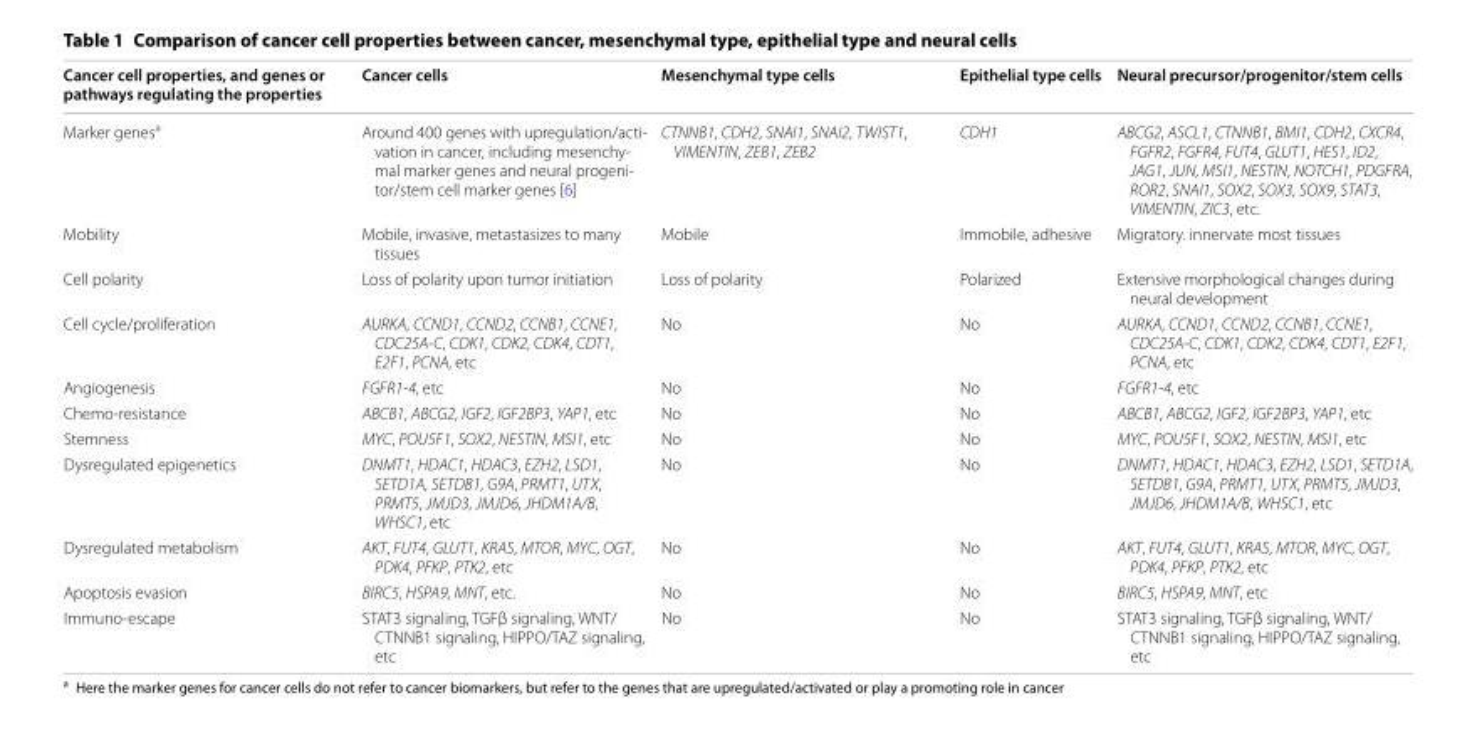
<table><thead><tr><td>Cancer cell properties, and genes or pathways regulating the properties</td><td>Cancer cells</td><td>Mesenchymal type cells</td><td>Epithelial type cells</td><td>Neural precursor/progenitor/stem cells</td></tr></thead><tbody><tr><td>Marker genes<sup>a</sup></td><td>Around 400 genes with upregulation/acti- vation in cancer, including mesenchy- mal marker genes and neural progeni- tor/stem cell marker genes [6]</td><td>CTNNB1, CDH2, SNAI1, SNAI2, TWIST1, VIMENTIN, ZEB1, ZEB2</td><td>CDH1</td><td>ABCG2, ASCL1, CTNNB1, BMI1, CDH2, CXCR4, FGFR2, FGFR4, FUT4, GLUT1, HES1, ID2, JAG1, JUN, MSI1, NESTIN, NOTCH1, PDGFRA, ROR2, SNAI1, SOX2, SOX3, SOX9, STAT3, VIMENTIN, ZIC3, etc.</td></tr><tr><td>Mobility</td><td>Mobile, invasive, metastasizes to many tissues</td><td>Mobile</td><td>Immobile, adhesive</td><td>Migratory. innervate most tissues</td></tr><tr><td>Cell polarity</td><td>Loss of polarity upon tumor initiation</td><td>Loss of polarity</td><td>Polarized</td><td>Extensive morphological changes during neural development</td></tr><tr><td>Cell cycle/proliferation</td><td>AURKA, CCND1, CCND2, CCNB1, CCNE1, CDC25A-C, CDK1, CDK2, CDK4, CDT1, E2F1, PCNA, etc</td><td>No</td><td>No</td><td>AURKA, CCND1, CCND2, CCNB1, CCNE1, CDC25A-C, CDK1, CDK2, CDK4, CDT1, E2F1, PCNA, etc</td></tr><tr><td>Angiogenesis</td><td>FGFR1-4, etc</td><td>No</td><td>No</td><td>FGFR1-4, etc</td></tr><tr><td>Chemo-resistance</td><td>ABCB1, ABCG2, IGF2, IGF2BP3, YAP1, etc</td><td>No</td><td>No</td><td>ABCB1, ABCG2, IGF2, IGF2BP3, YAP1, etc</td></tr><tr><td>Stemness</td><td>MYC, POU5F1, SOX2, NESTIN, MSI1, etc</td><td>No</td><td>No</td><td>MYC, POU5F1, SOX2, NESTIN, MSI1, etc</td></tr><tr><td>Dysregulated epigenetics</td><td>DNMT1, HDAC1, HDAC3, EZH2, LSD1, SETD1A, SETDB1, G9A, PRMT1, UTX, PRMT5, JMJD3, JMJD6, JHDM1A/B, WHSC1, etc</td><td>No</td><td>No</td><td>DNMT1, HDAC1, HDAC3, EZH2, LSD1, SETD1A, SETDB1, G9A, PRMT1, UTX, PRMT5, JMJD3, JMJD6, JHDM1A/B, WHSC1, etc</td></tr><tr><td>Dysregulated metabolism</td><td>AKT, FUT4, GLUT1, KRAS, MTOR, MYC, OGT, PDK4, PFKP, PTK2, etc</td><td>No</td><td>No</td><td>AKT, FUT4, GLUT1, KRAS, MTOR, MYC, OGT, PDK4, PFKP, PTK2, etc</td></tr><tr><td>Apoptosis evasion</td><td>BIRC5, HSPA9, MNT, etc.</td><td>No</td><td>No</td><td>BIRC5, HSPA9, MNT, etc</td></tr><tr><td>Immuno-escape</td><td>STAT3 signaling, TGFβ signaling, WNT/ CTNNB1 signaling, HIPPO/TAZ signaling, etc</td><td>No</td><td>No</td><td>STAT3 signaling, TGFβ signaling, WNT/ CTNNB1 signaling, HIPPO/TAZ signaling, etc</td></tr></tbody></table>